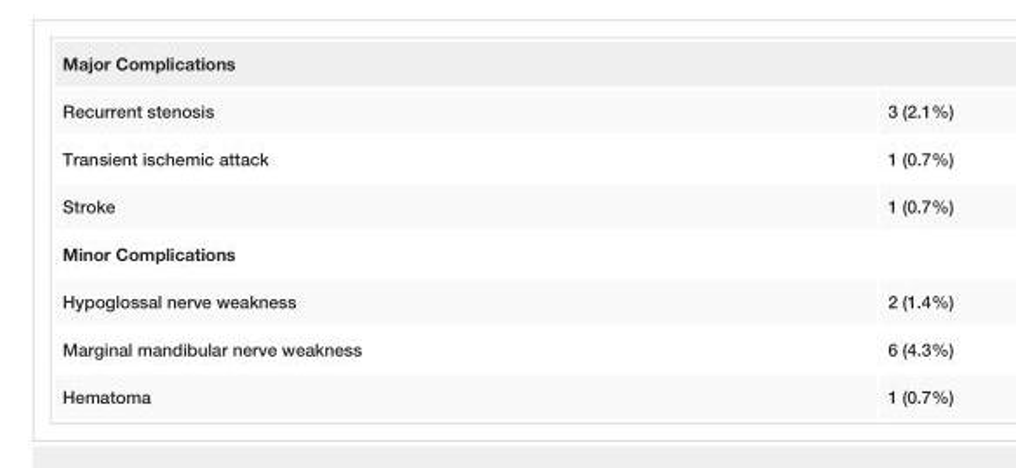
<table><tbody><tr><td colspan="2">Major Complications</td></tr><tr><td>Recurrent stenosis</td><td>3 (2.1%)</td></tr><tr><td>Transient ischemic attack</td><td>1 (0.7%)</td></tr><tr><td>Stroke</td><td>1 (0.7%)</td></tr><tr><td colspan="2">Minor Complications</td></tr><tr><td>Hypoglossal nerve weakness</td><td>2 (1.4%)</td></tr><tr><td>Marginal mandibular nerve weakness</td><td>6 (4.3%)</td></tr><tr><td>Hematoma</td><td>1 (0.7%)</td></tr></tbody></table>